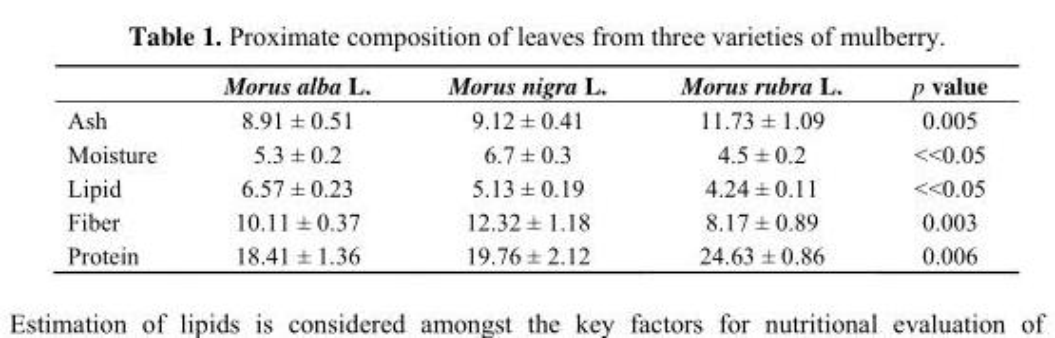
<table><thead><tr><td></td><td>Morus alba L.</td><td>Morus nigra L.</td><td>Morus rubra L.</td><td>p value</td></tr></thead><tbody><tr><td>Ash</td><td>8.91 ± 0.51</td><td>9.12 ± 0.41</td><td>11.73 ± 1.09</td><td>0.005</td></tr><tr><td>Moisture</td><td>5.3 ± 0.2</td><td>6.7 ± 0.3</td><td>4.5 ± 0.2</td><td>&lt;&lt;0.05</td></tr><tr><td>Lipid</td><td>6.57 ± 0.23</td><td>5.13 ± 0.19</td><td>4.24 ± 0.11</td><td>&lt;&lt;0.05</td></tr><tr><td>Fiber</td><td>10.11 ± 0.37</td><td>12.32 ± 1.18</td><td>8.17 ± 0.89</td><td>0.003</td></tr><tr><td>Protein</td><td>18.41 ± 1.36</td><td>19.76 ± 2.12</td><td>24.63 ± 0.86</td><td>0.006</td></tr></tbody></table>